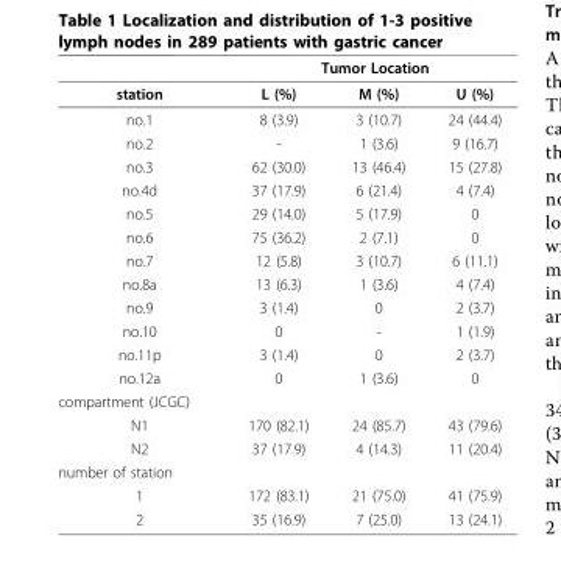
<table><thead><tr><td rowspan="2">station</td><td colspan="3">Tumor Location</td></tr><tr><td>L (%)</td><td>M (%)</td><td>U (%)</td></tr></thead><tbody><tr><td>no.1</td><td>8 (3.9)</td><td>3 (10.7)</td><td>24 (44.4)</td></tr><tr><td>no.2</td><td>-</td><td>1 (3.6)</td><td>9 (16.7)</td></tr><tr><td>no.3</td><td>62 (30.0)</td><td>13 (46.4)</td><td>15 (27.8)</td></tr><tr><td>no.4d</td><td>37 (17.9)</td><td>6 (21.4)</td><td>4 (7.4)</td></tr><tr><td>no.5</td><td>29 (14.0)</td><td>5 (17.9)</td><td>0</td></tr><tr><td>no.6</td><td>75 (36.2)</td><td>2 (7.1)</td><td>0</td></tr><tr><td>no.7</td><td>12 (5.8)</td><td>3 (10.7)</td><td>6 (11.1)</td></tr><tr><td>no.8a</td><td>13 (6.3)</td><td>1 (3.6)</td><td>4 (7.4)</td></tr><tr><td>no.9</td><td>3 (1.4)</td><td>0</td><td>2 (3.7)</td></tr><tr><td>no.10</td><td>0</td><td>-</td><td>1 (1.9)</td></tr><tr><td>no.11p</td><td>3 (1.4)</td><td>0</td><td>2 (3.7)</td></tr><tr><td>no.12a</td><td>0</td><td>1 (3.6)</td><td>0</td></tr><tr><td colspan="4">compartment (JCGC)</td></tr><tr><td>N1</td><td>170 (82.1)</td><td>24 (85.7)</td><td>43 (79.6)</td></tr><tr><td>N2</td><td>37 (17.9)</td><td>4 (14.3)</td><td>11 (20.4)</td></tr><tr><td colspan="4">number of station</td></tr><tr><td>1</td><td>172 (83.1)</td><td>21 (75.0)</td><td>41 (75.9)</td></tr><tr><td>2</td><td>35 (16.9)</td><td>7 (25.0)</td><td>13 (24.1)</td></tr></tbody></table>